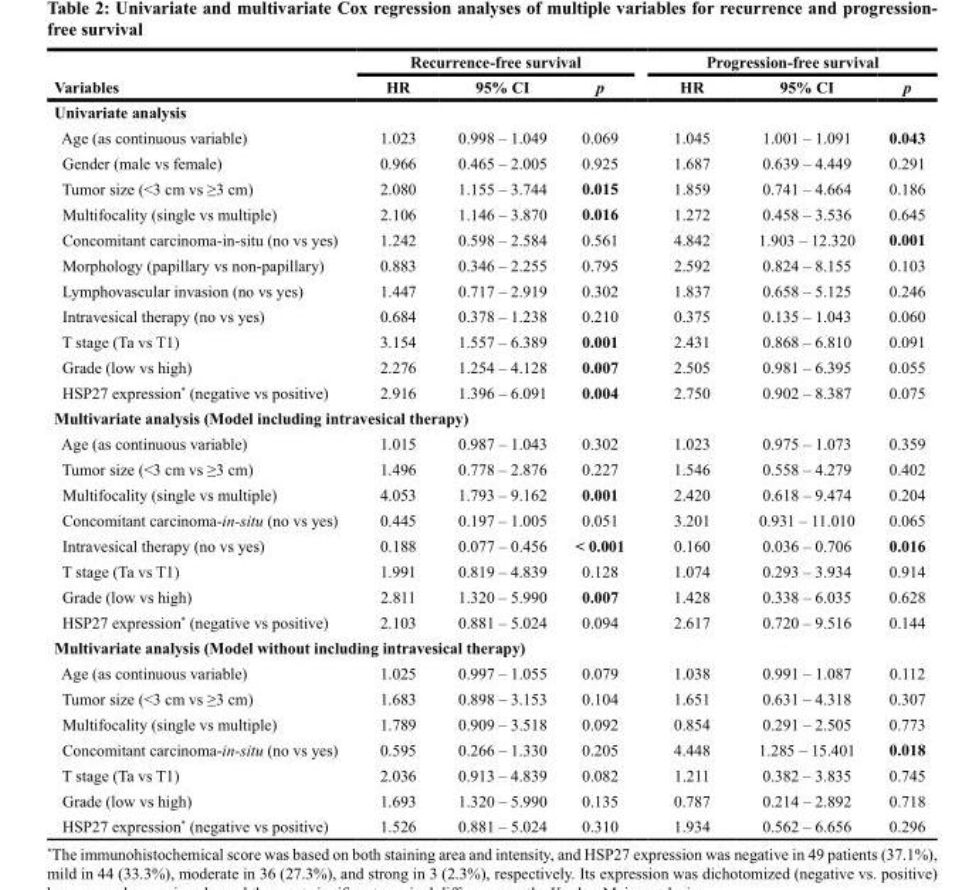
<table><thead><tr><td rowspan="2">Variables</td><td colspan="3">Recurrence-free survival</td><td colspan="3">Progression-free survival</td></tr><tr><td>HR</td><td>95% CI</td><td>p</td><td>HR</td><td>95% CI</td><td>p</td></tr></thead><tbody><tr><td colspan="7">Univariate analysis</td></tr><tr><td>Age (as continuous variable)</td><td>1.023</td><td>0.998 – 1.049</td><td>0.069</td><td>1.045</td><td>1.001 – 1.091</td><td>0.043</td></tr><tr><td>Gender (male vs female)</td><td>0.966</td><td>0.465 – 2.005</td><td>0.925</td><td>1.687</td><td>0.639 – 4.449</td><td>0.291</td></tr><tr><td>Tumor size (&lt;3 cm vs ≥3 cm)</td><td>2.080</td><td>1.155 – 3.744</td><td>0.015</td><td>1.859</td><td>0.741 – 4.664</td><td>0.186</td></tr><tr><td>Multifocality (single vs multiple)</td><td>2.106</td><td>1.146 – 3.870</td><td>0.016</td><td>1.272</td><td>0.458 – 3.536</td><td>0.645</td></tr><tr><td>Concomitant carcinoma-in-situ (no vs yes)</td><td>1.242</td><td>0.598 – 2.584</td><td>0.561</td><td>4.842</td><td>1.903 – 12.320</td><td>0.001</td></tr><tr><td>Morphology (papillary vs non-papillary)</td><td>0.883</td><td>0.346 – 2.255</td><td>0.795</td><td>2.592</td><td>0.824 – 8.155</td><td>0.103</td></tr><tr><td>Lymphovascular invasion (no vs yes)</td><td>1.447</td><td>0.717 – 2.919</td><td>0.302</td><td>1.837</td><td>0.658 – 5.125</td><td>0.246</td></tr><tr><td>Intravesical therapy (no vs yes)</td><td>0.684</td><td>0.378 – 1.238</td><td>0.210</td><td>0.375</td><td>0.135 – 1.043</td><td>0.060</td></tr><tr><td>T stage (Ta vs T1)</td><td>3.154</td><td>1.557 – 6.389</td><td>0.001</td><td>2.431</td><td>0.868 – 6.810</td><td>0.091</td></tr><tr><td>Grade (low vs high)</td><td>2.276</td><td>1.254 – 4.128</td><td>0.007</td><td>2.505</td><td>0.981 – 6.395</td><td>0.055</td></tr><tr><td>HSP27 expression* (negative vs positive)</td><td>2.916</td><td>1.396 – 6.091</td><td>0.004</td><td>2.750</td><td>0.902 – 8.387</td><td>0.075</td></tr><tr><td colspan="7">Multivariate analysis (Model including intravesical therapy)</td></tr><tr><td>Age (as continuous variable)</td><td>1.015</td><td>0.987 – 1.043</td><td>0.302</td><td>1.023</td><td>0.975 – 1.073</td><td>0.359</td></tr><tr><td>Tumor size (&lt;3 cm vs ≥3 cm)</td><td>1.496</td><td>0.778 – 2.876</td><td>0.227</td><td>1.546</td><td>0.558 – 4.279</td><td>0.402</td></tr><tr><td>Multifocality (single vs multiple)</td><td>4.053</td><td>1.793 – 9.162</td><td>0.001</td><td>2.420</td><td>0.618 – 9.474</td><td>0.204</td></tr><tr><td>Concomitant carcinoma-in-situ (no vs yes)</td><td>0.445</td><td>0.197 – 1.005</td><td>0.051</td><td>3.201</td><td>0.931 – 11.010</td><td>0.065</td></tr><tr><td>Intravesical therapy (no vs yes)</td><td>0.188</td><td>0.077 – 0.456</td><td>&lt; 0.001</td><td>0.160</td><td>0.036 – 0.706</td><td>0.016</td></tr><tr><td>T stage (Ta vs T1)</td><td>1.991</td><td>0.819 – 4.839</td><td>0.128</td><td>1.074</td><td>0.293 – 3.934</td><td>0.914</td></tr><tr><td>Grade (low vs high)</td><td>2.811</td><td>1.320 – 5.990</td><td>0.007</td><td>1.428</td><td>0.338 – 6.035</td><td>0.628</td></tr><tr><td>HSP27 expression* (negative vs positive)</td><td>2.103</td><td>0.881 – 5.024</td><td>0.094</td><td>2.617</td><td>0.720 – 9.516</td><td>0.144</td></tr><tr><td colspan="7">Multivariate analysis (Model without including intravesical therapy)</td></tr><tr><td>Age (as continuous variable)</td><td>1.025</td><td>0.997 – 1.055</td><td>0.079</td><td>1.038</td><td>0.991 – 1.087</td><td>0.112</td></tr><tr><td>Tumor size (&lt;3 cm vs ≥3 cm)</td><td>1.683</td><td>0.898 – 3.153</td><td>0.104</td><td>1.651</td><td>0.631 – 4.318</td><td>0.307</td></tr><tr><td>Multifocality (single vs multiple)</td><td>1.789</td><td>0.909 – 3.518</td><td>0.092</td><td>0.854</td><td>0.291 – 2.505</td><td>0.773</td></tr><tr><td>Concomitant carcinoma-in-situ (no vs yes)</td><td>0.595</td><td>0.266 – 1.330</td><td>0.205</td><td>4.448</td><td>1.285 – 15.401</td><td>0.018</td></tr><tr><td>T stage (Ta vs T1)</td><td>2.036</td><td>0.913 – 4.839</td><td>0.082</td><td>1.211</td><td>0.382 – 3.835</td><td>0.745</td></tr><tr><td>Grade (low vs high)</td><td>1.693</td><td>1.320 – 5.990</td><td>0.135</td><td>0.787</td><td>0.214 – 2.892</td><td>0.718</td></tr><tr><td>HSP27 expression* (negative vs positive)</td><td>1.526</td><td>0.881 – 5.024</td><td>0.310</td><td>1.934</td><td>0.562 – 6.656</td><td>0.296</td></tr></tbody></table>